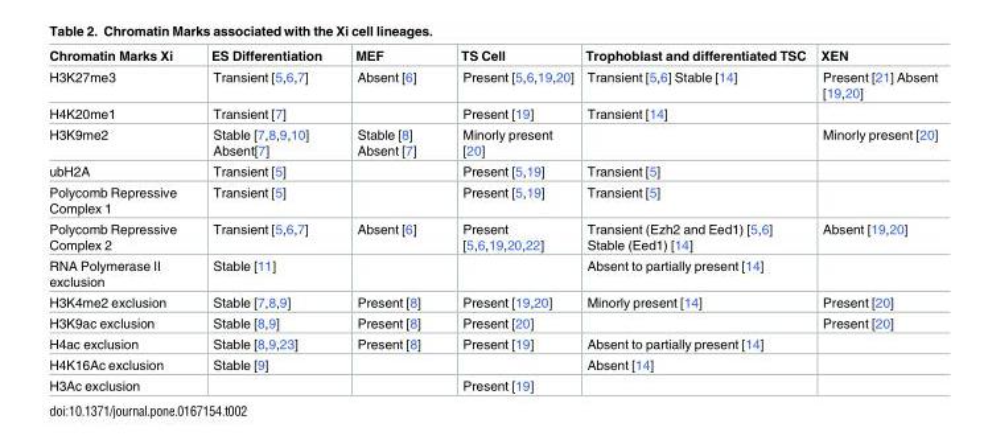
<table><thead><tr><td>Chromatin Marks Xi</td><td>ES Differentiation</td><td>MEF</td><td>TS Cell</td><td>Trophoblast and differentiated TSC</td><td>XEN</td></tr></thead><tbody><tr><td>H3K27me3</td><td>Transient [5,6,7]</td><td>Absent [6]</td><td>Present [5,6,19,20]</td><td>Transient [5,6] Stable [14]</td><td>Present [21] Absent [19,20]</td></tr><tr><td>H4K20me1</td><td>Transient [7]</td><td></td><td>Present [19]</td><td>Transient [14]</td><td></td></tr><tr><td>H3K9me2</td><td>Stable [7,8,9,10] Absent[7]</td><td>Stable [8] Absent [7]</td><td>Minorly present [20]</td><td></td><td>Minorly present [20]</td></tr><tr><td>ubH2A</td><td>Transient [5]</td><td></td><td>Present [5,19]</td><td>Transient [5]</td><td></td></tr><tr><td>Polycomb Repressive Complex 1</td><td>Transient [5]</td><td></td><td>Present [5,19]</td><td>Transient [5]</td><td></td></tr><tr><td>Polycomb Repressive Complex 2</td><td>Transient [5,6,7]</td><td>Absent [6]</td><td>Present [5,6,19,20,22]</td><td>Transient (Ezh2 and Eed1) [5,6] Stable (Eed1) [14]</td><td>Absent [19,20]</td></tr><tr><td>RNA Polymerase II exclusion</td><td>Stable [11]</td><td></td><td></td><td>Absent to partially present [14]</td><td></td></tr><tr><td>H3K4me2 exclusion</td><td>Stable [7,8,9]</td><td>Present [8]</td><td>Present [19,20]</td><td>Minorly present [14]</td><td>Present [20]</td></tr><tr><td>H3K9ac exclusion</td><td>Stable [8,9]</td><td>Present [8]</td><td>Present [20]</td><td></td><td>Present [20]</td></tr><tr><td>H4ac exclusion</td><td>Stable [8,9,23]</td><td>Present [8]</td><td>Present [19]</td><td>Absent to partially present [14]</td><td></td></tr><tr><td>H4K16Ac exclusion</td><td>Stable [9]</td><td></td><td></td><td>Absent [14]</td><td></td></tr><tr><td>H3Ac exclusion</td><td></td><td></td><td>Present [19]</td><td></td><td></td></tr></tbody></table>